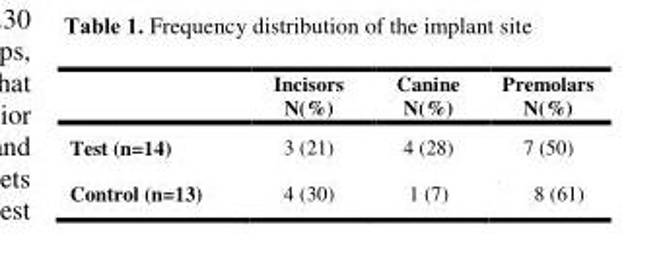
<table><thead><tr><td></td><td>Incisors N(%)</td><td>Canine N(%)</td><td>Premolars N(%)</td></tr></thead><tbody><tr><td>Test (n=14)</td><td>3 (21)</td><td>4 (28)</td><td>7 (50)</td></tr><tr><td>Control (n=13)</td><td>4 (30)</td><td>1 (7)</td><td>8 (61)</td></tr></tbody></table>